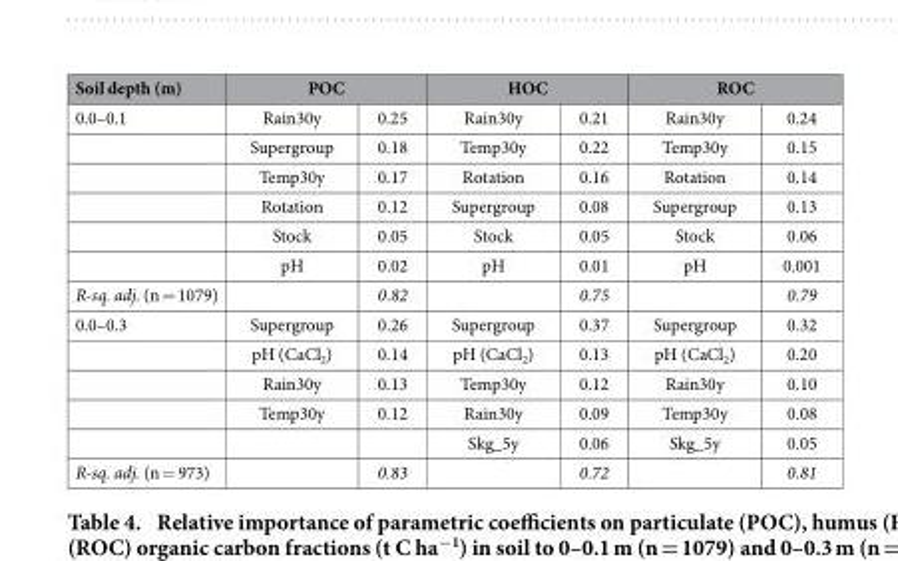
<table><thead><tr><td rowspan="2">Soil depth (m) 0.0–0.1</td><td colspan="2">POC</td><td colspan="2">HOC</td><td colspan="2">ROC</td></tr><tr><td>Rain30y</td><td>0.25</td><td>Rain30y</td><td>0.21</td><td>Rain30y</td><td>0.24</td></tr></thead><tbody><tr><td></td><td>Supergroup</td><td>0.18</td><td>Temp30y</td><td>0.22</td><td>Temp30y</td><td>0.15</td></tr><tr><td></td><td>Temp30y</td><td>0.17</td><td>Rotation</td><td>0.16</td><td>Rotation</td><td>0.14</td></tr><tr><td></td><td>Rotation</td><td>0.12</td><td>Supergroup</td><td>0.08</td><td>Supergroup</td><td>0.13</td></tr><tr><td></td><td>Stock</td><td>0.05</td><td>Stock</td><td>0.05</td><td>Stock</td><td>0.06</td></tr><tr><td></td><td>pH</td><td>0.02</td><td>pH</td><td>0.01</td><td>pH</td><td>0.001</td></tr><tr><td>R-sq. adj. (n = 1079)</td><td></td><td>0.82</td><td></td><td>0.75</td><td></td><td>0.79</td></tr><tr><td rowspan="5">0.0–0.3</td><td>Supergroup</td><td>0.26</td><td>Supergroup</td><td>0.37</td><td>Supergroup</td><td>0.32</td></tr><tr><td>pH (CaCl<sub>2</sub>)</td><td>0.14</td><td>pH (CaCl<sub>2</sub>)</td><td>0.13</td><td>pH (CaCl<sub>2</sub>)</td><td>0.20</td></tr><tr><td>Rain30y</td><td>0.13</td><td>Temp30y</td><td>0.12</td><td>Rain30y</td><td>0.10</td></tr><tr><td>Temp30y</td><td>0.12</td><td>Rain30y</td><td>0.09</td><td>Temp30y</td><td>0.08</td></tr><tr><td></td><td></td><td>Skg_5y</td><td>0.06</td><td>Skg_5y</td><td>0.05</td></tr><tr><td>R-sq. adj. (n = 973)</td><td></td><td>0.83</td><td></td><td>0.72</td><td></td><td>0.81</td></tr></tbody></table>